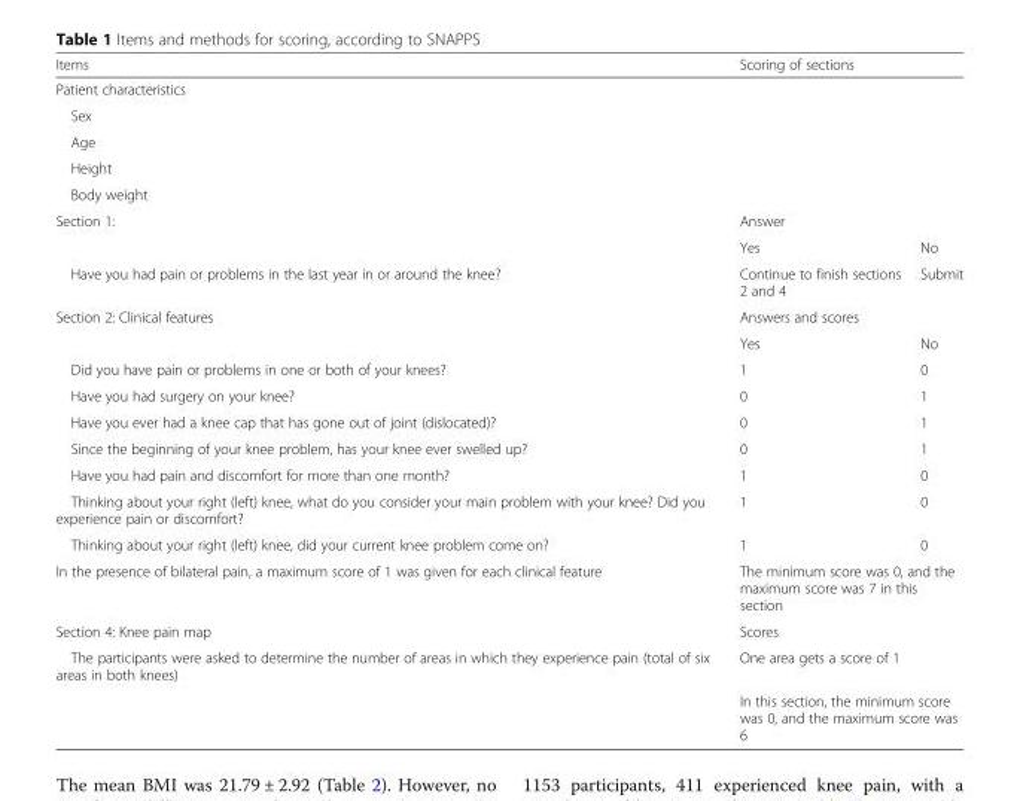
<table><thead><tr><td>Items</td><td colspan="2">Scoring of sections</td></tr></thead><tbody><tr><td colspan="3">Patient characteristics</td></tr><tr><td colspan="3">Sex</td></tr><tr><td colspan="3">Age</td></tr><tr><td colspan="3">Height</td></tr><tr><td colspan="3">Body weight</td></tr><tr><td rowspan="2">Section 1:</td><td colspan="2">Answer</td></tr><tr><td>Yes</td><td>No</td></tr><tr><td>Have you had pain or problems in the last year in or around the knee?</td><td>Continue to finish sections 2 and 4</td><td>Submit</td></tr><tr><td rowspan="2">Section 2: Clinical features</td><td colspan="2">Answers and scores</td></tr><tr><td>Yes</td><td>No</td></tr><tr><td>Did you have pain or problems in one or both of your knees?</td><td>1</td><td>0</td></tr><tr><td>Have you had surgery on your knee?</td><td>0</td><td>1</td></tr><tr><td>Have you ever had a knee cap that has gone out of joint (dislocated)?</td><td>0</td><td>1</td></tr><tr><td>Since the beginning of your knee problem, has your knee ever swelled up?</td><td>0</td><td>1</td></tr><tr><td>Have you had pain and discomfort for more than one month?</td><td>1</td><td>0</td></tr><tr><td>Thinking about your right (left) knee, what do you consider your main problem with your knee? Did you experience pain or discomfort?</td><td>1</td><td>0</td></tr><tr><td>Thinking about your right (left) knee, did your current knee problem come on?</td><td>1</td><td>0</td></tr><tr><td>In the presence of bilateral pain, a maximum score of 1 was given for each clinical feature</td><td colspan="2">The minimum score was 0, and the maximum score was 7 in this section</td></tr><tr><td>Section 4: Knee pain map</td><td colspan="2">Scores</td></tr><tr><td rowspan="2">The participants were asked to determine the number of areas in which they experience pain (total of six areas in both knees)</td><td colspan="2">One area gets a score of 1</td></tr><tr><td colspan="2">In this section, the minimum score was 0, and the maximum score was 6</td></tr></tbody></table>